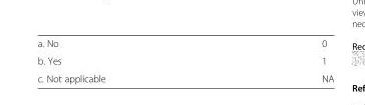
<table><tbody><tr><td>a. No</td><td>0</td></tr><tr><td>b. Yes</td><td>1</td></tr></tbody></table>